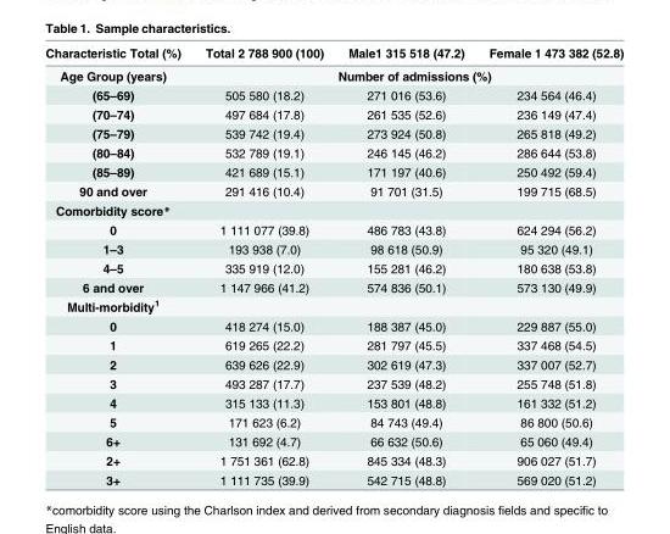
<table><thead><tr><td>Characteristic Total (%)</td><td>Total 2 788 900 (100)</td><td>Male1 315 518 (47.2)</td><td>Female 1 473 382 (52.8)</td></tr></thead><tbody><tr><td>Age Group (years)</td><td colspan="3">Number of admissions (%)</td></tr><tr><td>(65–69)</td><td>505 580 (18.2)</td><td>271 016 (53.6)</td><td>234 564 (46.4)</td></tr><tr><td>(70–74)</td><td>497 684 (17.8)</td><td>261 535 (52.6)</td><td>236 149 (47.4)</td></tr><tr><td>(75–79)</td><td>539 742 (19.4)</td><td>273 924 (50.8)</td><td>265 818 (49.2)</td></tr><tr><td>(80–84)</td><td>532 789 (19.1)</td><td>246 145 (46.2)</td><td>286 644 (53.8)</td></tr><tr><td>(85–89)</td><td>421 689 (15.1)</td><td>171 197 (40.6)</td><td>250 492 (59.4)</td></tr><tr><td>90 and over</td><td>291 416 (10.4)</td><td>91 701 (31.5)</td><td>199 715 (68.5)</td></tr><tr><td colspan="4">Comorbidity score*</td></tr><tr><td>0</td><td>1 111 077 (39.8)</td><td>486 783 (43.8)</td><td>624 294 (56.2)</td></tr><tr><td>1–3</td><td>193 938 (7.0)</td><td>98 618 (50.9)</td><td>95 320 (49.1)</td></tr><tr><td>4–5</td><td>335 919 (12.0)</td><td>155 281 (46.2)</td><td>180 638 (53.8)</td></tr><tr><td>6 and over</td><td>1 147 966 (41.2)</td><td>574 836 (50.1)</td><td>573 130 (49.9)</td></tr><tr><td colspan="4">Multi-morbidity<sup>1</sup></td></tr><tr><td>0</td><td>418 274 (15.0)</td><td>188 387 (45.0)</td><td>229 887 (55.0)</td></tr><tr><td>1</td><td>619 265 (22.2)</td><td>281 797 (45.5)</td><td>337 468 (54.5)</td></tr><tr><td>2</td><td>639 626 (22.9)</td><td>302 619 (47.3)</td><td>337 007 (52.7)</td></tr><tr><td>3</td><td>493 287 (17.7)</td><td>237 539 (48.2)</td><td>255 748 (51.8)</td></tr><tr><td>4</td><td>315 133 (11.3)</td><td>153 801 (48.8)</td><td>161 332 (51.2)</td></tr><tr><td>5</td><td>171 623 (6.2)</td><td>84 743 (49.4)</td><td>86 800 (50.6)</td></tr><tr><td>6+</td><td>131 692 (4.7)</td><td>66 632 (50.6)</td><td>65 060 (49.4)</td></tr><tr><td>2+</td><td>1 751 361 (62.8)</td><td>845 334 (48.3)</td><td>906 027 (51.7)</td></tr><tr><td>3+</td><td>1 111 735 (39.9)</td><td>542 715 (48.8)</td><td>569 020 (51.2)</td></tr></tbody></table>